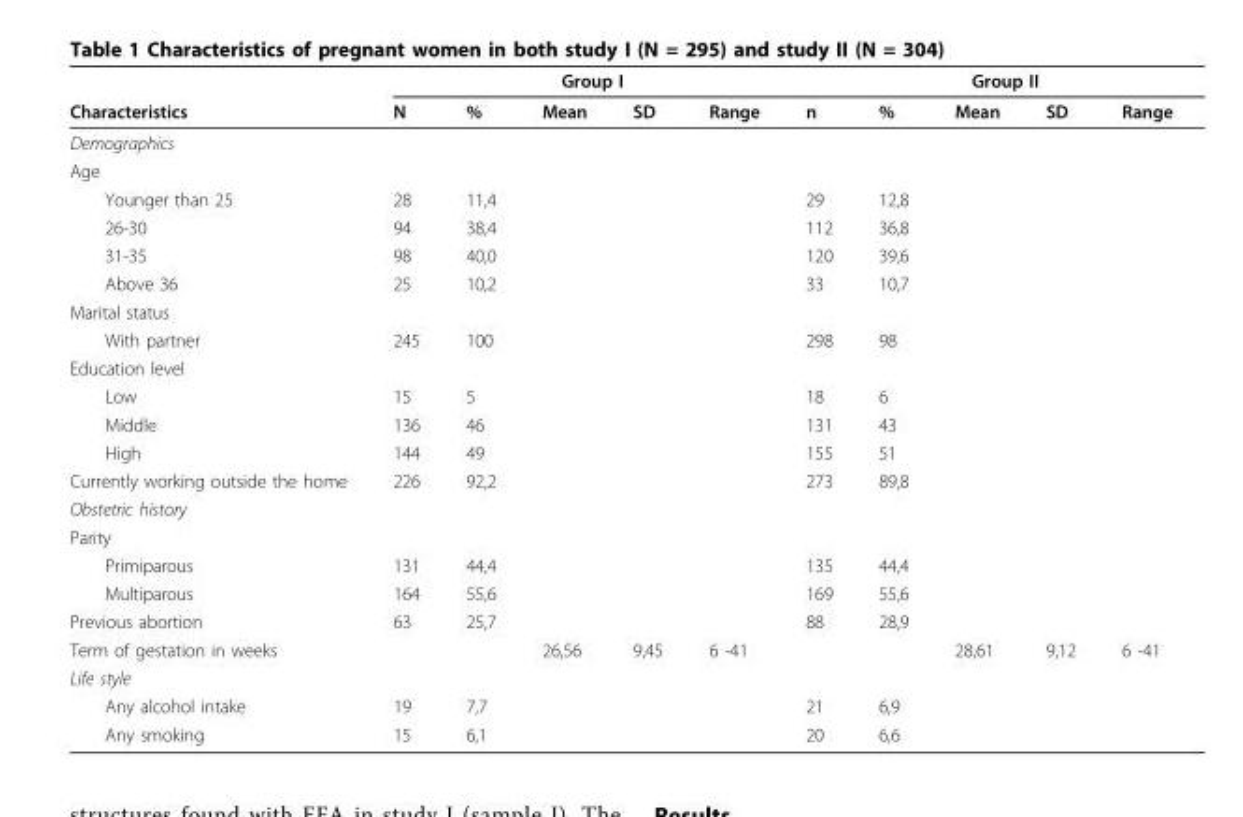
<table><thead><tr><td rowspan="2">Characteristics</td><td colspan="5">Group I</td><td colspan="5">Group II</td></tr><tr><td>N</td><td>%</td><td>Mean</td><td>SD</td><td>Range</td><td>n</td><td>%</td><td>Mean</td><td>SD</td><td>Range</td></tr></thead><tbody><tr><td colspan="11">Demographics</td></tr><tr><td colspan="11">Age</td></tr><tr><td>Younger than 25</td><td>28</td><td>11,4</td><td></td><td></td><td></td><td>29</td><td>12,8</td><td></td><td></td><td></td></tr><tr><td>26-30</td><td>94</td><td>38,4</td><td></td><td></td><td></td><td>112</td><td>36,8</td><td></td><td></td><td></td></tr><tr><td>31-35</td><td>98</td><td>40,0</td><td></td><td></td><td></td><td>120</td><td>39,6</td><td></td><td></td><td></td></tr><tr><td>Above 36</td><td>25</td><td>10,2</td><td></td><td></td><td></td><td>33</td><td>10,7</td><td></td><td></td><td></td></tr><tr><td colspan="11">Marital status</td></tr><tr><td>With partner</td><td>245</td><td>100</td><td></td><td></td><td></td><td>298</td><td>98</td><td></td><td></td><td></td></tr><tr><td colspan="11">Education level</td></tr><tr><td>Low</td><td>15</td><td>5</td><td></td><td></td><td></td><td>18</td><td>6</td><td></td><td></td><td></td></tr><tr><td>Middle</td><td>136</td><td>46</td><td></td><td></td><td></td><td>131</td><td>43</td><td></td><td></td><td></td></tr><tr><td>High</td><td>144</td><td>49</td><td></td><td></td><td></td><td>155</td><td>51</td><td></td><td></td><td></td></tr><tr><td>Currently working outside the home</td><td>226</td><td>92,2</td><td></td><td></td><td></td><td>273</td><td>89,8</td><td></td><td></td><td></td></tr><tr><td colspan="11">Obstetric history</td></tr><tr><td colspan="11">Parity</td></tr><tr><td>Primiparous</td><td>131</td><td>44,4</td><td></td><td></td><td></td><td>135</td><td>44,4</td><td></td><td></td><td></td></tr><tr><td>Multiparous</td><td>164</td><td>55,6</td><td></td><td></td><td></td><td>169</td><td>55,6</td><td></td><td></td><td></td></tr><tr><td>Previous abortion</td><td>63</td><td>25,7</td><td></td><td></td><td></td><td>88</td><td>28,9</td><td></td><td></td><td></td></tr><tr><td>Term of gestation in weeks</td><td></td><td></td><td>26,56</td><td>9,45</td><td>6 -41</td><td></td><td></td><td>28,61</td><td>9,12</td><td>6 -41</td></tr><tr><td colspan="11">Life style</td></tr><tr><td>Any alcohol intake</td><td>19</td><td>7,7</td><td></td><td></td><td></td><td>21</td><td>6,9</td><td></td><td></td><td></td></tr><tr><td>Any smoking</td><td>15</td><td>6,1</td><td></td><td></td><td></td><td>20</td><td>6,6</td><td></td><td></td><td></td></tr></tbody></table>